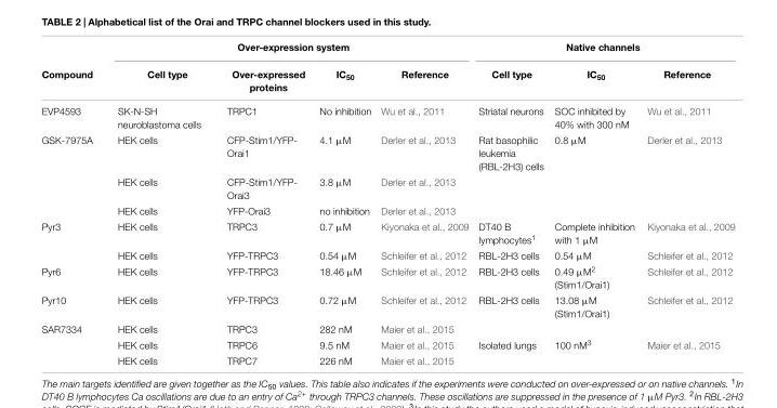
<table><thead><tr><td rowspan="2">Compound</td><td colspan="4">Over-expression system</td><td colspan="3">Native channels</td></tr><tr><td>Cell type</td><td>Over-expressed proteins</td><td>IC<sub>50</sub></td><td>Reference</td><td>Cell type</td><td>IC<sub>50</sub></td><td>Reference</td></tr></thead><tbody><tr><td>EVP4593</td><td>SK-N-SH neuroblastoma cells</td><td>TRPC1</td><td>No inhibition</td><td>Wu et al., 2011</td><td>Striatal neurons</td><td>SOC inhibited by 40% with 300 nM</td><td>Wu et al., 2011</td></tr><tr><td rowspan="3">GSK-7975A</td><td>HEK cells</td><td>CFP-Stim1/YFP- Orai1</td><td>4.1 µM</td><td>Derler et al., 2013</td><td>Rat basophilic leukemia (RBL-2H3) cells</td><td>0.8 µM</td><td>Derler et al., 2013</td></tr><tr><td>HEK cells</td><td>CFP-Stim1/YFP- Orai3</td><td>3.8 µM</td><td>Derler et al., 2013</td><td></td><td></td><td></td></tr><tr><td>HEK cells</td><td>YFP-Orai3</td><td>no inhibition</td><td>Derler et al., 2013</td><td></td><td></td><td></td></tr><tr><td rowspan="2">Pyr3</td><td>HEK cells</td><td>TRPC3</td><td>0.7 µM</td><td>Kiyonaka et al., 2009</td><td>DT40 B lymphocytes<sup>1</sup></td><td>Complete inhibition with 1 µM</td><td>Kiyonaka et al., 2009</td></tr><tr><td>HEK cells</td><td>YFP-TRPC3</td><td>0.54 µM</td><td>Schleifer et al., 2012</td><td>RBL-2H3 cells</td><td>0.54 µM</td><td>Schleifer et al., 2012</td></tr><tr><td>Pyr6</td><td>HEK cells</td><td>YFP-TRPC3</td><td>18.46 µM</td><td>Schleifer et al., 2012</td><td>RBL-2H3 cells</td><td>0.49 µM<sup>2</sup> (Stim1/Orai1)</td><td>Schleifer et al., 2012</td></tr><tr><td>Pyr10</td><td>HEK cells</td><td>YFP-TRPC3</td><td>0.72 µM</td><td>Schleifer et al., 2012</td><td>RBL-2H3 cells</td><td>13.08 µM (Stim1/Orai1)</td><td>Schleifer et al., 2012</td></tr><tr><td rowspan="3">SAR7334</td><td>HEK cells</td><td>TRPC3</td><td>282 nM</td><td>Maier et al., 2015</td><td></td><td></td><td></td></tr><tr><td>HEK cells</td><td>TRPC6</td><td>9.5 nM</td><td>Maier et al., 2015</td><td>Isolated lungs</td><td>100 nM<sup>3</sup></td><td>Maier et al., 2015</td></tr><tr><td>HEK cells</td><td>TRPC7</td><td>226 nM</td><td>Maier et al., 2015</td><td></td><td></td><td></td></tr></tbody></table>